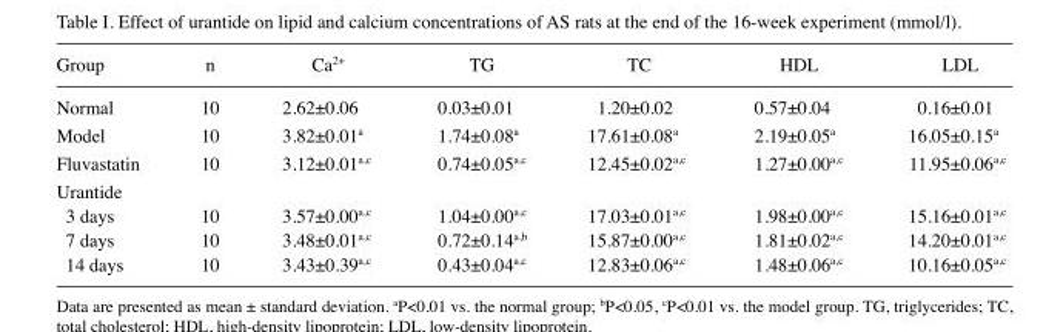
<table><thead><tr><td>Group</td><td>n</td><td>Ca<sup>2+</sup></td><td>TG</td><td>TC</td><td>HDL</td><td>LDL</td></tr></thead><tbody><tr><td>Normal</td><td>10</td><td>2.62±0.06</td><td>0.03±0.01</td><td>1.20±0.02</td><td>0.57±0.04</td><td>0.16±0.01</td></tr><tr><td>Model</td><td>10</td><td>3.82±0.01<sup>a</sup></td><td>1.74±0.08<sup>a</sup></td><td>17.61±0.08<sup>a</sup></td><td>2.19±0.05<sup>a</sup></td><td>16.05±0.15<sup>a</sup></td></tr><tr><td>Fluvastatin</td><td>10</td><td>3.12±0.01<sup>a,c</sup></td><td>0.74±0.05<sup>a,c</sup></td><td>12.45±0.02<sup>a,c</sup></td><td>1.27±0.00<sup>a,c</sup></td><td>11.95±0.06<sup>a,c</sup></td></tr><tr><td colspan="7">Urantide</td></tr><tr><td>3 days</td><td>10</td><td>3.57±0.00<sup>a,c</sup></td><td>1.04±0.00<sup>a,c</sup></td><td>17.03±0.01<sup>a,c</sup></td><td>1.98±0.00<sup>a,c</sup></td><td>15.16±0.01<sup>a,c</sup></td></tr><tr><td>7 days</td><td>10</td><td>3.48±0.01<sup>a,c</sup></td><td>0.72±0.14<sup>a,b</sup></td><td>15.87±0.00<sup>a,c</sup></td><td>1.81±0.02<sup>a,c</sup></td><td>14.20±0.01<sup>a,c</sup></td></tr><tr><td>14 days</td><td>10</td><td>3.43±0.39<sup>a,c</sup></td><td>0.43±0.04<sup>a,c</sup></td><td>12.83±0.06<sup>a,c</sup></td><td>1.48±0.06<sup>a,c</sup></td><td>10.16±0.05<sup>a,c</sup></td></tr></tbody></table>